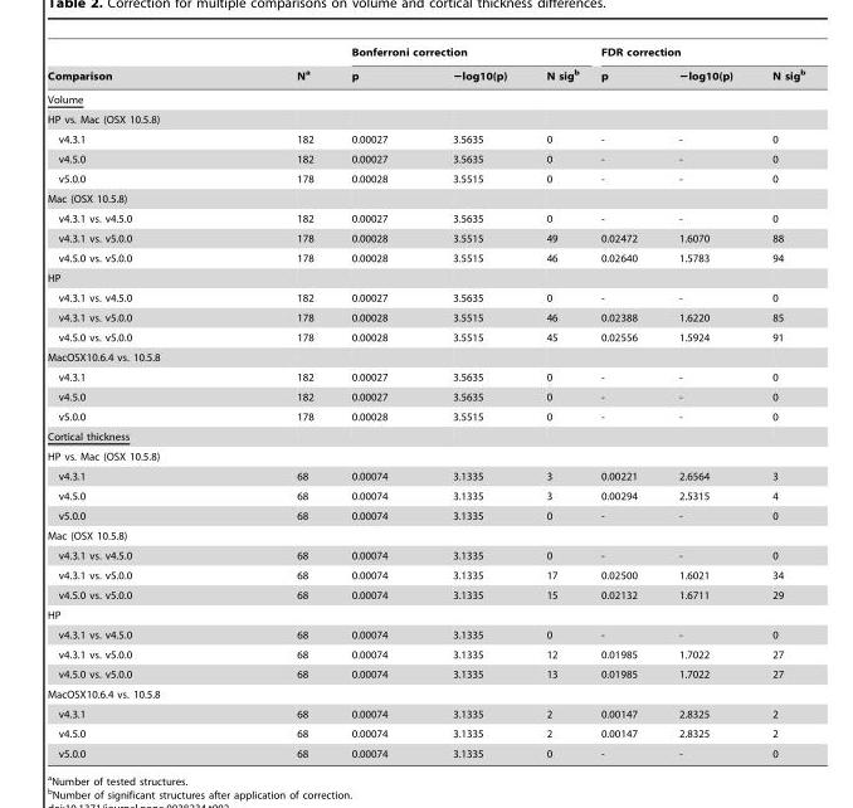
<table><thead><tr><td rowspan="2">Comparison</td><td rowspan="2">N<sup>a</sup></td><td colspan="3">Bonferroni correction</td><td colspan="3">FDR correction</td></tr><tr><td>p</td><td>−log10(p)</td><td>N sig<sup>b</sup></td><td>p</td><td>−log10(p)</td><td>N sig<sup>b</sup></td></tr></thead><tbody><tr><td colspan="8">Volume</td></tr><tr><td colspan="8">HP vs. Mac (OSX 10.5.8)</td></tr><tr><td>v4.3.1</td><td>182</td><td>0.00027</td><td>3.5635</td><td>0</td><td>-</td><td>-</td><td>0</td></tr><tr><td>v4.5.0</td><td>182</td><td>0.00027</td><td>3.5635</td><td>0</td><td>-</td><td>-</td><td>0</td></tr><tr><td>v5.0.0</td><td>178</td><td>0.00028</td><td>3.5515</td><td>0</td><td>-</td><td>-</td><td>0</td></tr><tr><td colspan="8">Mac (OSX 10.5.8)</td></tr><tr><td>v4.3.1 vs. v4.5.0</td><td>182</td><td>0.00027</td><td>3.5635</td><td>0</td><td>-</td><td>-</td><td>0</td></tr><tr><td>v4.3.1 vs. v5.0.0</td><td>178</td><td>0.00028</td><td>3.5515</td><td>49</td><td>0.02472</td><td>1.6070</td><td>88</td></tr><tr><td>v4.5.0 vs. v5.0.0</td><td>178</td><td>0.00028</td><td>3.5515</td><td>46</td><td>0.02640</td><td>1.5783</td><td>94</td></tr><tr><td colspan="8">HP</td></tr><tr><td>v4.3.1 vs. v4.5.0</td><td>182</td><td>0.00027</td><td>3.5635</td><td>0</td><td>-</td><td>-</td><td>0</td></tr><tr><td>v4.3.1 vs. v5.0.0</td><td>178</td><td>0.00028</td><td>3.5515</td><td>46</td><td>0.02388</td><td>1.6220</td><td>85</td></tr><tr><td>v4.5.0 vs. v5.0.0</td><td>178</td><td>0.00028</td><td>3.5515</td><td>45</td><td>0.02556</td><td>1.5924</td><td>91</td></tr><tr><td colspan="8">MacOSX10.6.4 vs. 10.5.8</td></tr><tr><td>v4.3.1</td><td>182</td><td>0.00027</td><td>3.5635</td><td>0</td><td>-</td><td>-</td><td>0</td></tr><tr><td>v4.5.0</td><td>182</td><td>0.00027</td><td>3.5635</td><td>0</td><td>-</td><td>-</td><td>0</td></tr><tr><td>v5.0.0</td><td>178</td><td>0.00028</td><td>3.5515</td><td>0</td><td>-</td><td>-</td><td>0</td></tr><tr><td colspan="8">Cortical thickness</td></tr><tr><td colspan="8">HP vs. Mac (OSX 10.5.8)</td></tr><tr><td>v4.3.1</td><td>68</td><td>0.00074</td><td>3.1335</td><td>3</td><td>0.00221</td><td>2.6564</td><td>3</td></tr><tr><td>v4.5.0</td><td>68</td><td>0.00074</td><td>3.1335</td><td>3</td><td>0.00294</td><td>2.5315</td><td>4</td></tr><tr><td>v5.0.0</td><td>68</td><td>0.00074</td><td>3.1335</td><td>0</td><td>-</td><td>-</td><td>0</td></tr><tr><td colspan="8">Mac (OSX 10.5.8)</td></tr><tr><td>v4.3.1 vs. v4.5.0</td><td>68</td><td>0.00074</td><td>3.1335</td><td>0</td><td>-</td><td>-</td><td>0</td></tr><tr><td>v4.3.1 vs. v5.0.0</td><td>68</td><td>0.00074</td><td>3.1335</td><td>17</td><td>0.02500</td><td>1.6021</td><td>34</td></tr><tr><td>v4.5.0 vs. v5.0.0</td><td>68</td><td>0.00074</td><td>3.1335</td><td>15</td><td>0.02132</td><td>1.6711</td><td>29</td></tr><tr><td colspan="8">HP</td></tr><tr><td>v4.3.1 vs. v4.5.0</td><td>68</td><td>0.00074</td><td>3.1335</td><td>0</td><td>-</td><td>-</td><td>0</td></tr><tr><td>v4.3.1 vs. v5.0.0</td><td>68</td><td>0.00074</td><td>3.1335</td><td>12</td><td>0.01985</td><td>1.7022</td><td>27</td></tr><tr><td>v4.5.0 vs. v5.0.0</td><td>68</td><td>0.00074</td><td>3.1335</td><td>13</td><td>0.01985</td><td>1.7022</td><td>27</td></tr><tr><td colspan="8">MacOSX10.6.4 vs. 10.5.8</td></tr><tr><td>v4.3.1</td><td>68</td><td>0.00074</td><td>3.1335</td><td>2</td><td>0.00147</td><td>2.8325</td><td>2</td></tr><tr><td>v4.5.0</td><td>68</td><td>0.00074</td><td>3.1335</td><td>2</td><td>0.00147</td><td>2.8325</td><td>2</td></tr><tr><td>v5.0.0</td><td>68</td><td>0.00074</td><td>3.1335</td><td>0</td><td>-</td><td>-</td><td>0</td></tr></tbody></table>